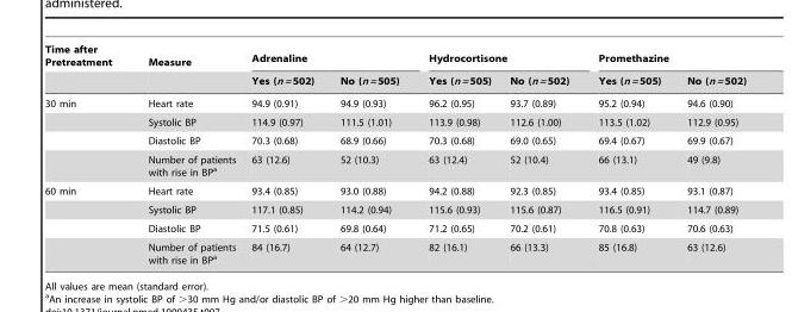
<table><thead><tr><td rowspan="2">Time after Pretreatment</td><td rowspan="2">Measure</td><td colspan="2">Adrenaline</td><td colspan="2">Hydrocortisone</td><td colspan="2">Promethazine</td></tr><tr><td>Yes (n = 502)</td><td>No (n = 505)</td><td>Yes (n = 505)</td><td>No (n = 502)</td><td>Yes (n = 505)</td><td>No (n = 502)</td></tr></thead><tbody><tr><td rowspan="4">30 min</td><td>Heart rate</td><td>94.9 (0.91)</td><td>94.9 (0.93)</td><td>96.2 (0.95)</td><td>93.7 (0.89)</td><td>95.2 (0.94)</td><td>94.6 (0.90)</td></tr><tr><td>Systolic BP</td><td>114.9 (0.97)</td><td>111.5 (1.01)</td><td>113.9 (0.98)</td><td>112.6 (1.00)</td><td>113.5 (1.02)</td><td>112.9 (0.95)</td></tr><tr><td>Diastolic BP</td><td>70.3 (0.68)</td><td>68.9 (0.66)</td><td>70.3 (0.68)</td><td>69.0 (0.65)</td><td>69.4 (0.67)</td><td>69.9 (0.67)</td></tr><tr><td>Number of patients with rise in BP<sup>a</sup></td><td>63 (12.6)</td><td>52 (10.3)</td><td>63 (12.4)</td><td>52 (10.4)</td><td>66 (13.1)</td><td>49 (9.8)</td></tr><tr><td rowspan="4">60 min</td><td>Heart rate</td><td>93.4 (0.85)</td><td>93.0 (0.88)</td><td>94.2 (0.88)</td><td>92.3 (0.85)</td><td>93.4 (0.85)</td><td>93.1 (0.87)</td></tr><tr><td>Systolic BP</td><td>117.1 (0.85)</td><td>114.2 (0.94)</td><td>115.6 (0.93)</td><td>115.6 (0.87)</td><td>116.5 (0.91)</td><td>114.7 (0.89)</td></tr><tr><td>Diastolic BP</td><td>71.5 (0.61)</td><td>69.8 (0.64)</td><td>71.2 (0.65)</td><td>70.2 (0.61)</td><td>70.8 (0.63)</td><td>70.6 (0.63)</td></tr><tr><td>Number of patients with rise in BP<sup>a</sup></td><td>84 (16.7)</td><td>64 (12.7)</td><td>82 (16.1)</td><td>66 (13.3)</td><td>85 (16.8)</td><td>63 (12.6)</td></tr></tbody></table>